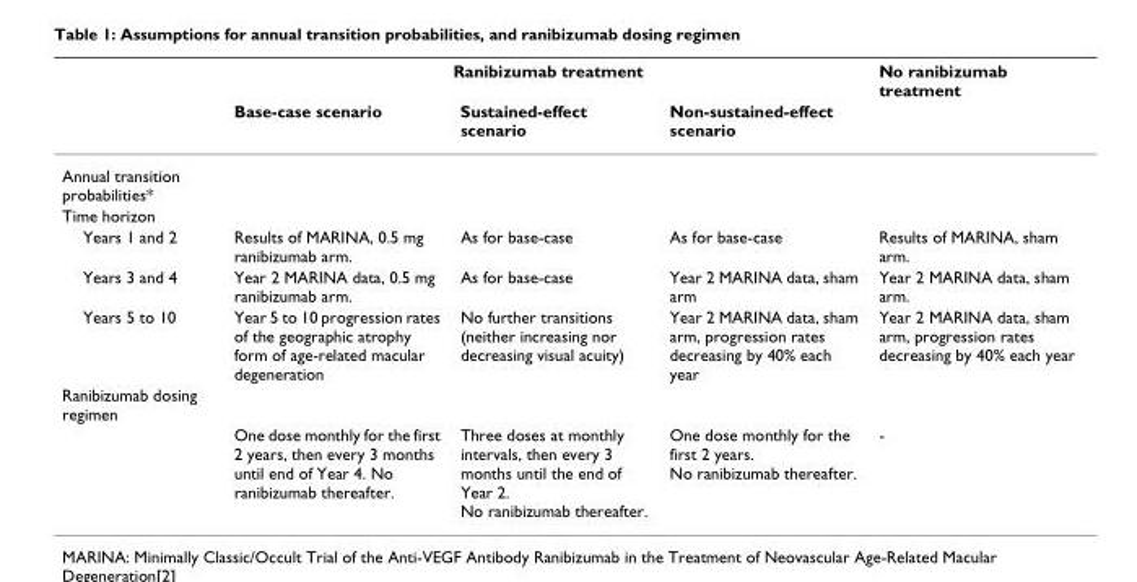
<table><thead><tr><td rowspan="2"></td><td colspan="3">Ranibizumab treatment</td><td rowspan="2">No ranibizumab treatment</td></tr><tr><td>Base-case scenario</td><td>Sustained-effect scenario</td><td>Non-sustained-effect scenario</td></tr></thead><tbody><tr><td colspan="5">Annual transition probabilities*</td></tr><tr><td colspan="5">Time horizon</td></tr><tr><td>Years 1 and 2</td><td>Results of MARINA, 0.5 mg ranibizumab arm.</td><td>As for base-case</td><td>As for base-case</td><td>Results of MARINA, sham arm.</td></tr><tr><td>Years 3 and 4</td><td>Year 2 MARINA data, 0.5 mg ranibizumab arm.</td><td>As for base-case</td><td>Year 2 MARINA data, sham arm</td><td>Year 2 MARINA data, sham arm.</td></tr><tr><td>Years 5 to 10</td><td>Year 5 to 10 progression rates of the geographic atrophy form of age-related macular degeneration</td><td>No further transitions (neither increasing nor decreasing visual acuity)</td><td>Year 2 MARINA data, sham arm, progression rates decreasing by 40% each year</td><td>Year 2 MARINA data, sham arm, progression rates decreasing by 40% each year</td></tr><tr><td colspan="5">Ranibizumab dosing regimen</td></tr><tr><td></td><td>One dose monthly for the first 2 years, then every 3 months until end of Year 4. No ranibizumab thereafter.</td><td>Three doses at monthly intervals, then every 3 months until the end of Year 2. No ranibizumab thereafter.</td><td>One dose monthly for the first 2 years. No ranibizumab thereafter.</td><td>-</td></tr></tbody></table>